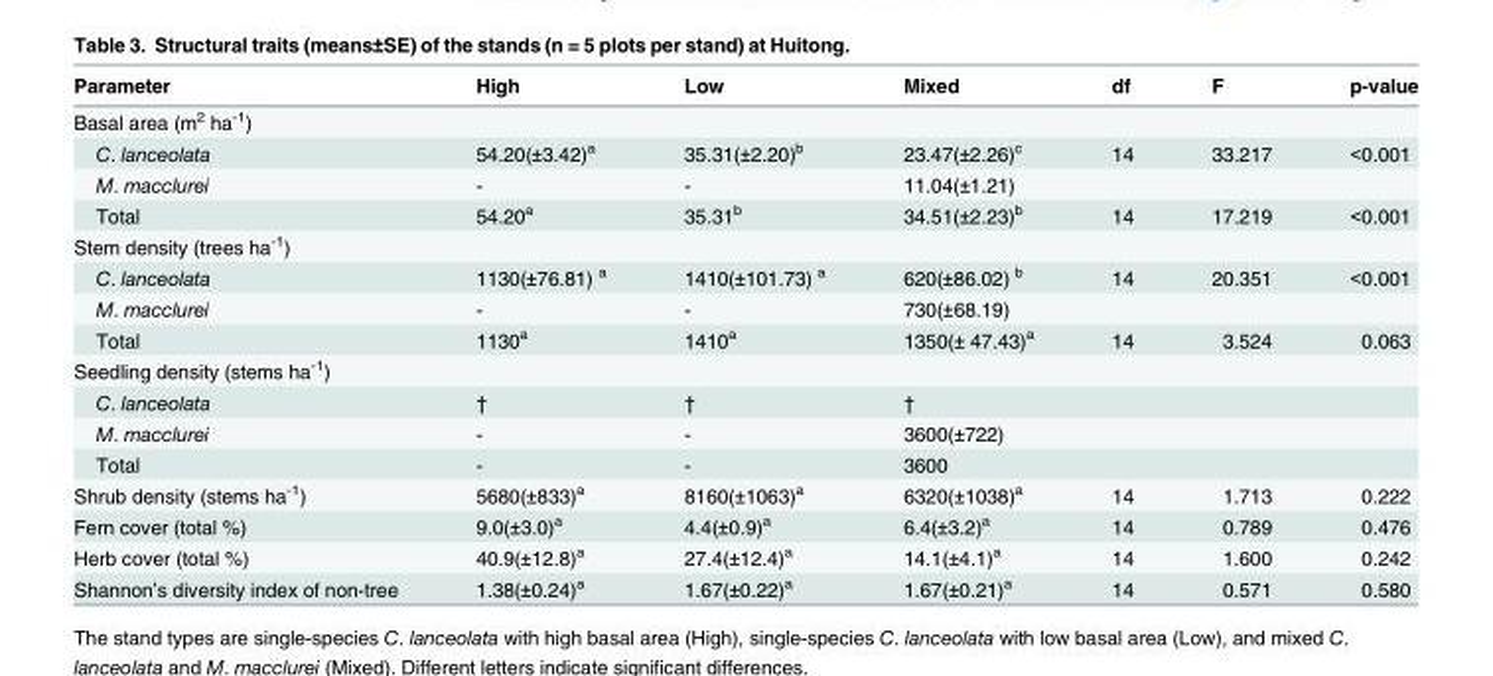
<table><thead><tr><td>Parameter</td><td>High</td><td>Low</td><td>Mixed</td><td>df</td><td>F</td><td>p-value</td></tr></thead><tbody><tr><td colspan="7">Basal area (m<sup>2</sup> ha<sup>-1</sup>)</td></tr><tr><td>C. lanceolata</td><td>54.20(±3.42)<sup>a</sup></td><td>35.31(±2.20)<sup>b</sup></td><td>23.47(±2.26)<sup>c</sup></td><td>14</td><td>33.217</td><td>&lt;0.001</td></tr><tr><td>M. macclurei</td><td>-</td><td>-</td><td>11.04(±1.21)</td><td></td><td></td><td></td></tr><tr><td>Total</td><td>54.20<sup>a</sup></td><td>35.31<sup>b</sup></td><td>34.51(±2.23)<sup>b</sup></td><td>14</td><td>17.219</td><td>&lt;0.001</td></tr><tr><td colspan="7">Stem density (trees ha<sup>-1</sup>)</td></tr><tr><td>C. lanceolata</td><td>1130(±76.81) <sup>a</sup></td><td>1410(±101.73) <sup>a</sup></td><td>620(±86.02) <sup>b</sup></td><td>14</td><td>20.351</td><td>&lt;0.001</td></tr><tr><td>M. macclurei</td><td>-</td><td>-</td><td>730(±68.19)</td><td></td><td></td><td></td></tr><tr><td>Total</td><td>1130<sup>a</sup></td><td>1410<sup>a</sup></td><td>1350(± 47.43)<sup>a</sup></td><td>14</td><td>3.524</td><td>0.063</td></tr><tr><td colspan="7">Seedling density (stems ha<sup>-1</sup>)</td></tr><tr><td>C. lanceolata</td><td>†</td><td>†</td><td>†</td><td></td><td></td><td></td></tr><tr><td>M. macclurei</td><td>-</td><td>-</td><td>3600(±722)</td><td></td><td></td><td></td></tr><tr><td>Total</td><td>-</td><td>-</td><td>3600</td><td></td><td></td><td></td></tr><tr><td>Shrub density (stems ha<sup>-1</sup>)</td><td>5680(±833)<sup>a</sup></td><td>8160(±1063)<sup>a</sup></td><td>6320(±1038)<sup>a</sup></td><td>14</td><td>1.713</td><td>0.222</td></tr><tr><td>Fern cover (total %)</td><td>9.0(±3.0)<sup>a</sup></td><td>4.4(±0.9)<sup>a</sup></td><td>6.4(±3.2)<sup>a</sup></td><td>14</td><td>0.789</td><td>0.476</td></tr><tr><td>Herb cover (total %)</td><td>40.9(±12.8)<sup>a</sup></td><td>27.4(±12.4)<sup>a</sup></td><td>14.1(±4.1)<sup>a</sup></td><td>14</td><td>1.600</td><td>0.242</td></tr><tr><td>Shannon’s diversity index of non-tree</td><td>1.38(±0.24)<sup>a</sup></td><td>1.67(±0.22)<sup>a</sup></td><td>1.67(±0.21)<sup>a</sup></td><td>14</td><td>0.571</td><td>0.580</td></tr></tbody></table>